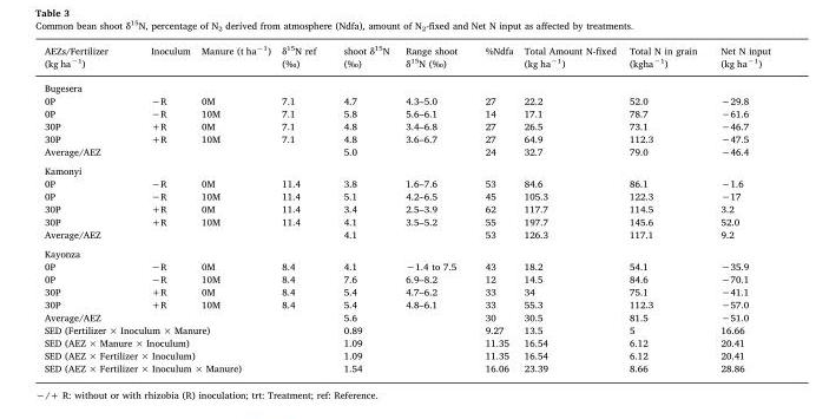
<table><thead><tr><td>AEZs/Fertilizer (kg ha<sup>−1</sup>)</td><td>Inoculum</td><td>Manure (t ha<sup>−1</sup>)</td><td>δ<sup>15</sup>N ref (‰)</td><td>shoot δ<sup>15</sup>N (‰)</td><td>Range shoot δ<sup>15</sup>N (‰)</td><td>%Ndfa</td><td>Total Amount N-fixed (kg ha<sup>−1</sup>)</td><td>Total N in grain (kgha<sup>−1</sup>)</td><td>Net N input (kg ha<sup>−1</sup>)</td></tr></thead><tbody><tr><td colspan="10">Bugesera</td></tr><tr><td>0P</td><td>−R</td><td>0M</td><td>7.1</td><td>4.7</td><td>4.3–5.0</td><td>27</td><td>22.2</td><td>52.0</td><td>−29.8</td></tr><tr><td>0P</td><td>−R</td><td>10M</td><td>7.1</td><td>5.8</td><td>5.6–6.1</td><td>14</td><td>17.1</td><td>78.7</td><td>−61.6</td></tr><tr><td>30P</td><td>+R</td><td>0M</td><td>7.1</td><td>4.8</td><td>3.4–6.8</td><td>27</td><td>26.5</td><td>73.1</td><td>−46.7</td></tr><tr><td>30P</td><td>+R</td><td>10M</td><td>7.1</td><td>4.8</td><td>3.6–6.7</td><td>27</td><td>64.9</td><td>112.3</td><td>−47.5</td></tr><tr><td colspan="2">Average/AEZ</td><td></td><td></td><td>5.0</td><td></td><td>24</td><td>32.7</td><td>79.0</td><td>−46.4</td></tr><tr><td colspan="10">Kamonyi</td></tr><tr><td>0P</td><td>−R</td><td>0M</td><td>11.4</td><td>3.8</td><td>1.6–7.6</td><td>53</td><td>84.6</td><td>86.1</td><td>−1.6</td></tr><tr><td>0P</td><td>−R</td><td>10M</td><td>11.4</td><td>5.1</td><td>4.2–6.5</td><td>45</td><td>105.3</td><td>122.3</td><td>−17</td></tr><tr><td>30P</td><td>+R</td><td>0M</td><td>11.4</td><td>3.4</td><td>2.5–3.9</td><td>62</td><td>117.7</td><td>114.5</td><td>3.2</td></tr><tr><td>30P</td><td>+R</td><td>10M</td><td>11.4</td><td>4.1</td><td>3.5–5.2</td><td>55</td><td>197.7</td><td>145.6</td><td>52.0</td></tr><tr><td colspan="2">Average/AEZ</td><td></td><td></td><td>4.1</td><td></td><td>53</td><td>126.3</td><td>117.1</td><td>9.2</td></tr><tr><td colspan="10">Kayonza</td></tr><tr><td>0P</td><td>−R</td><td>0M</td><td>8.4</td><td>4.1</td><td>−1.4 to 7.5</td><td>43</td><td>18.2</td><td>54.1</td><td>−35.9</td></tr><tr><td>0P</td><td>−R</td><td>10M</td><td>8.4</td><td>7.6</td><td>6.9–8.2</td><td>12</td><td>14.5</td><td>84.6</td><td>−70.1</td></tr><tr><td>30P</td><td>+R</td><td>0M</td><td>8.4</td><td>5.4</td><td>4.7–6.2</td><td>33</td><td>34</td><td>75.1</td><td>−41.1</td></tr><tr><td>30P</td><td>+R</td><td>10M</td><td>8.4</td><td>5.4</td><td>4.8–6.1</td><td>33</td><td>55.3</td><td>112.3</td><td>−57.0</td></tr><tr><td colspan="2">Average/AEZ</td><td></td><td></td><td>5.6</td><td></td><td>30</td><td>30.5</td><td>81.5</td><td>−51.0</td></tr><tr><td colspan="3">SED (Fertilizer × Inoculum × Manure)</td><td></td><td>0.89</td><td></td><td>9.27</td><td>13.5</td><td>5</td><td>16.66</td></tr><tr><td colspan="3">SED (AEZ × Manure × Inoculum)</td><td></td><td>1.09</td><td></td><td>11.35</td><td>16.54</td><td>6.12</td><td>20.41</td></tr><tr><td colspan="3">SED (AEZ × Fertilizer × Inoculum)</td><td></td><td>1.09</td><td></td><td>11.35</td><td>16.54</td><td>6.12</td><td>20.41</td></tr><tr><td colspan="4">SED (AEZ × Fertilizer × Inoculum × Manure)</td><td>1.54</td><td></td><td>16.06</td><td>23.39</td><td>8.66</td><td>28.86</td></tr></tbody></table>